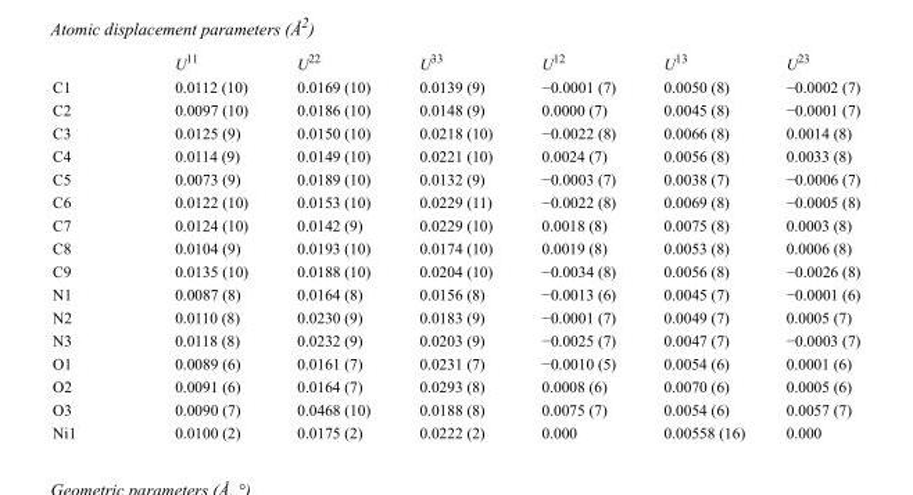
<table><thead><tr><td></td><td>U<sup>11</sup></td><td>U<sup>22</sup></td><td>U<sup>33</sup></td><td>U<sup>12</sup></td><td>U<sup>13</sup></td><td>U<sup>23</sup></td></tr></thead><tbody><tr><td>C1</td><td>0.0112 (10)</td><td>0.0169 (10)</td><td>0.0139 (9)</td><td>−0.0001 (7)</td><td>0.0050 (8)</td><td>−0.0002 (7)</td></tr><tr><td>C2</td><td>0.0097 (10)</td><td>0.0186 (10)</td><td>0.0148 (9)</td><td>0.0000 (7)</td><td>0.0045 (8)</td><td>−0.0001 (7)</td></tr><tr><td>C3</td><td>0.0125 (9)</td><td>0.0150 (10)</td><td>0.0218 (10)</td><td>−0.0022 (8)</td><td>0.0066 (8)</td><td>0.0014 (8)</td></tr><tr><td>C4</td><td>0.0114 (9)</td><td>0.0149 (10)</td><td>0.0221 (10)</td><td>0.0024 (7)</td><td>0.0056 (8)</td><td>0.0033 (8)</td></tr><tr><td>C5</td><td>0.0073 (9)</td><td>0.0189 (10)</td><td>0.0132 (9)</td><td>−0.0003 (7)</td><td>0.0038 (7)</td><td>−0.0006 (7)</td></tr><tr><td>C6</td><td>0.0122 (10)</td><td>0.0153 (10)</td><td>0.0229 (11)</td><td>−0.0022 (8)</td><td>0.0069 (8)</td><td>−0.0005 (8)</td></tr><tr><td>C7</td><td>0.0124 (10)</td><td>0.0142 (9)</td><td>0.0229 (10)</td><td>0.0018 (8)</td><td>0.0075 (8)</td><td>0.0003 (8)</td></tr><tr><td>C8</td><td>0.0104 (9)</td><td>0.0193 (10)</td><td>0.0174 (10)</td><td>0.0019 (8)</td><td>0.0053 (8)</td><td>0.0006 (8)</td></tr><tr><td>C9</td><td>0.0135 (10)</td><td>0.0188 (10)</td><td>0.0204 (10)</td><td>−0.0034 (8)</td><td>0.0056 (8)</td><td>−0.0026 (8)</td></tr><tr><td>N1</td><td>0.0087 (8)</td><td>0.0164 (8)</td><td>0.0156 (8)</td><td>−0.0013 (6)</td><td>0.0045 (7)</td><td>−0.0001 (6)</td></tr><tr><td>N2</td><td>0.0110 (8)</td><td>0.0230 (9)</td><td>0.0183 (9)</td><td>−0.0001 (7)</td><td>0.0049 (7)</td><td>0.0005 (7)</td></tr><tr><td>N3</td><td>0.0118 (8)</td><td>0.0232 (9)</td><td>0.0203 (9)</td><td>−0.0025 (7)</td><td>0.0047 (7)</td><td>−0.0003 (7)</td></tr><tr><td>O1</td><td>0.0089 (6)</td><td>0.0161 (7)</td><td>0.0231 (7)</td><td>−0.0010 (5)</td><td>0.0054 (6)</td><td>0.0001 (6)</td></tr><tr><td>O2</td><td>0.0091 (6)</td><td>0.0164 (7)</td><td>0.0293 (8)</td><td>0.0008 (6)</td><td>0.0070 (6)</td><td>0.0005 (6)</td></tr><tr><td>O3</td><td>0.0090 (7)</td><td>0.0468 (10)</td><td>0.0188 (8)</td><td>0.0075 (7)</td><td>0.0054 (6)</td><td>0.0057 (7)</td></tr><tr><td>Ni1</td><td>0.0100 (2)</td><td>0.0175 (2)</td><td>0.0222 (2)</td><td>0.000</td><td>0.00558 (16)</td><td>0.000</td></tr></tbody></table>